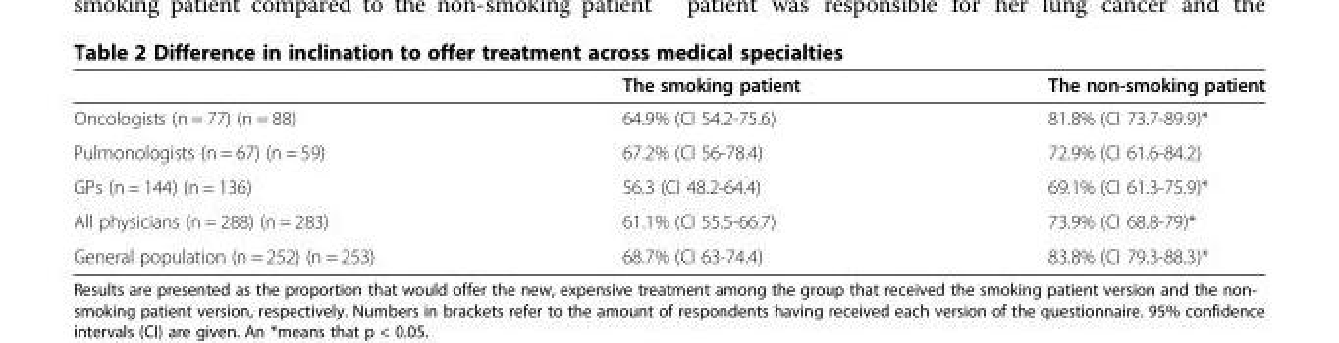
<table><thead><tr><td></td><td>The smoking patient</td><td>The non-smoking patient</td></tr></thead><tbody><tr><td>Oncologists (n = 77) (n = 88)</td><td>64.9% (CI 54.2-75.6)</td><td>81.8% (CI 73.7-89.9)*</td></tr><tr><td>Pulmonologists (n = 67) (n = 59)</td><td>67.2% (CI 56-78.4)</td><td>72.9% (CI 61.6-84.2)</td></tr><tr><td>GPs (n = 144) (n = 136)</td><td>56.3 (CI 48.2-64.4)</td><td>69.1% (CI 61.3-75.9)*</td></tr><tr><td>All physicians (n = 288) (n = 283)</td><td>61.1% (CI 55.5-66.7)</td><td>73.9% (CI 68.8-79)*</td></tr><tr><td>General population (n = 252) (n = 253)</td><td>68.7% (CI 63-74.4)</td><td>83.8% (CI 79.3-88.3)*</td></tr></tbody></table>